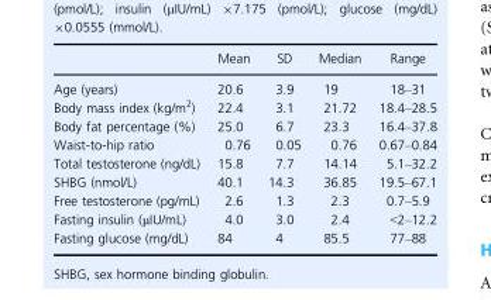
<table><thead><tr><td></td><td>Mean</td><td>SD</td><td>Median</td><td>Range</td></tr></thead><tbody><tr><td>Age (years)</td><td>20.6</td><td>3.9</td><td>19</td><td>18–31</td></tr><tr><td>Body mass index (kg/m<sup>2</sup>)</td><td>22.4</td><td>3.1</td><td>21.72</td><td>18.4–28.5</td></tr><tr><td>Body fat percentage (%)</td><td>25.0</td><td>6.7</td><td>23.3</td><td>16.4–37.8</td></tr><tr><td>Waist-to-hip ratio</td><td>0.76</td><td>0.05</td><td>0.76</td><td>0.67–0.84</td></tr><tr><td>Total testosterone (ng/dL)</td><td>15.8</td><td>7.7</td><td>14.14</td><td>5.1–32.2</td></tr><tr><td>SHBG (nmol/L)</td><td>40.1</td><td>14.3</td><td>36.85</td><td>19.5–67.1</td></tr><tr><td>Free testosterone (pg/mL)</td><td>2.6</td><td>1.3</td><td>2.3</td><td>0.7–5.9</td></tr><tr><td>Fasting insulin (μIU/mL)</td><td>4.0</td><td>3.0</td><td>2.4</td><td>&lt;2–12.2</td></tr><tr><td>Fasting glucose (mg/dL)</td><td>84</td><td>4</td><td>85.5</td><td>77–88</td></tr></tbody></table>